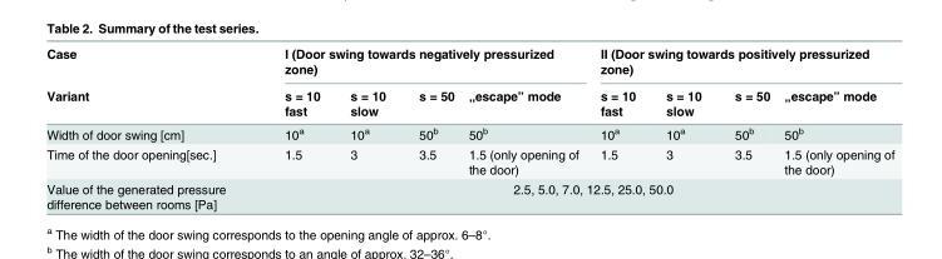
<table><thead><tr><td rowspan="2">Case Variant</td><td colspan="4">I (Door swing towards negatively pressurized zone)</td><td colspan="4">II (Door swing towards positively pressurized zone)</td></tr><tr><td>s = 10 fast</td><td>s = 10 slow</td><td>s = 50</td><td>„escape” mode</td><td>s = 10 fast</td><td>s = 10 slow</td><td>s = 50</td><td>„escape” mode</td></tr></thead><tbody><tr><td>Width of door swing [cm]</td><td>10<sup>a</sup></td><td>10<sup>a</sup></td><td>50<sup>b</sup></td><td>50<sup>b</sup></td><td>10<sup>a</sup></td><td>10<sup>a</sup></td><td>50<sup>b</sup></td><td>50<sup>b</sup></td></tr><tr><td>Time of the door opening[sec.]</td><td>1.5</td><td>3</td><td>3.5</td><td>1.5 (only opening of the door)</td><td>1.5</td><td>3</td><td>3.5</td><td>1.5 (only opening of the door)</td></tr><tr><td>Value of the generated pressure difference between rooms [Pa]</td><td colspan="8">2.5, 5.0, 7.0, 12.5, 25.0, 50.0</td></tr></tbody></table>